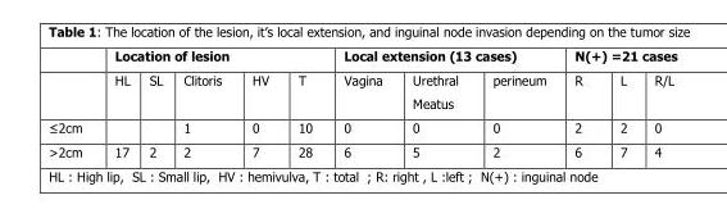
<table><thead><tr><td rowspan="2"></td><td colspan="5">Location of lesion</td><td colspan="3">Local extension (13 cases)</td><td colspan="3">N(+) =21 cases</td></tr><tr><td>HL</td><td>SL</td><td>Clitoris</td><td>HV</td><td>T</td><td>Vagina</td><td>Urethral Meatus</td><td>perineum</td><td>R</td><td>L</td><td>R/L</td></tr></thead><tbody><tr><td>≤2cm</td><td></td><td></td><td>1</td><td>0</td><td>10</td><td>0</td><td>0</td><td>0</td><td>2</td><td>2</td><td>0</td></tr><tr><td>˃2cm</td><td>17</td><td>2</td><td>2</td><td>7</td><td>28</td><td>6</td><td>5</td><td>2</td><td>6</td><td>7</td><td>4</td></tr></tbody></table>